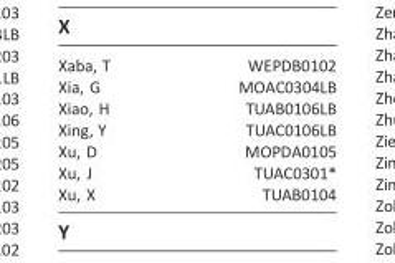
<table><tbody><tr><td>Xaba, T</td><td>WEPDB0102</td></tr><tr><td>Xia, G</td><td>MOAC0304LB</td></tr><tr><td>Xiao, H</td><td>TUAB0106LB</td></tr><tr><td>Xing, Y</td><td>TUAC0106LB</td></tr><tr><td>Xu, D</td><td>MOPDA0105</td></tr><tr><td>Xu, J</td><td>TUAC0301*</td></tr><tr><td>Xu, X</td><td>TUAB0104</td></tr></tbody></table>